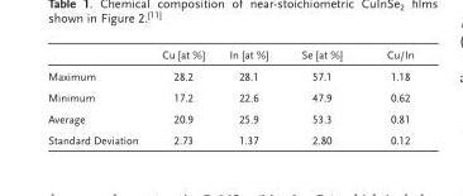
<table><thead><tr><td></td><td>Cu [at %]</td><td>In [at %]</td><td>Se [at %]</td><td>Cu/In</td></tr></thead><tbody><tr><td>Maximum</td><td>28.2</td><td>28.1</td><td>57.1</td><td>1.18</td></tr><tr><td>Minimum</td><td>17.2</td><td>22.6</td><td>47.9</td><td>0.62</td></tr><tr><td>Average</td><td>20.9</td><td>25.9</td><td>53.3</td><td>0.81</td></tr><tr><td>Standard Deviation</td><td>2.73</td><td>1.37</td><td>2.80</td><td>0.12</td></tr></tbody></table>